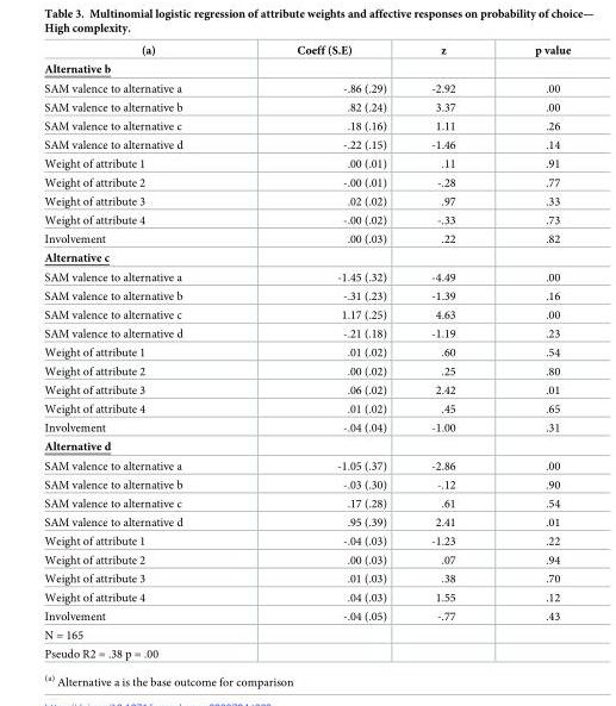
<table><thead><tr><td>(a)</td><td>Coeff (S.E)</td><td>z</td><td>p value</td></tr></thead><tbody><tr><td colspan="4">Alternative b</td></tr><tr><td>SAM valence to alternative a</td><td>-.86 (.29)</td><td>-2.92</td><td>.00</td></tr><tr><td>SAM valence to alternative b</td><td>.82 (.24)</td><td>3.37</td><td>.00</td></tr><tr><td>SAM valence to alternative c</td><td>.18 (.16)</td><td>1.11</td><td>.26</td></tr><tr><td>SAM valence to alternative d</td><td>-.22 (.15)</td><td>-1.46</td><td>.14</td></tr><tr><td>Weight of attribute 1</td><td>.00 (.01)</td><td>.11</td><td>.91</td></tr><tr><td>Weight of attribute 2</td><td>-.00 (.01)</td><td>-.28</td><td>.77</td></tr><tr><td>Weight of attribute 3</td><td>.02 (.02)</td><td>.97</td><td>.33</td></tr><tr><td>Weight of attribute 4</td><td>-.00 (.02)</td><td>-.33</td><td>.73</td></tr><tr><td>Involvement</td><td>.00 (.03)</td><td>.22</td><td>.82</td></tr><tr><td colspan="4">Alternative c</td></tr><tr><td>SAM valence to alternative a</td><td>-1.45 (.32)</td><td>-4.49</td><td>.00</td></tr><tr><td>SAM valence to alternative b</td><td>-.31 (.23)</td><td>-1.39</td><td>.16</td></tr><tr><td>SAM valence to alternative c</td><td>1.17 (.25)</td><td>4.63</td><td>.00</td></tr><tr><td>SAM valence to alternative d</td><td>-.21 (.18)</td><td>-1.19</td><td>.23</td></tr><tr><td>Weight of attribute 1</td><td>.01 (.02)</td><td>.60</td><td>.54</td></tr><tr><td>Weight of attribute 2</td><td>.00 (.02)</td><td>.25</td><td>.80</td></tr><tr><td>Weight of attribute 3</td><td>.06 (.02)</td><td>2.42</td><td>.01</td></tr><tr><td>Weight of attribute 4</td><td>.01 (.02)</td><td>.45</td><td>.65</td></tr><tr><td>Involvement</td><td>-.04 (.04)</td><td>-1.00</td><td>.31</td></tr><tr><td colspan="4">Alternative d</td></tr><tr><td>SAM valence to alternative a</td><td>-1.05 (.37)</td><td>-2.86</td><td>.00</td></tr><tr><td>SAM valence to alternative b</td><td>-.03 (.30)</td><td>-.12</td><td>.90</td></tr><tr><td>SAM valence to alternative c</td><td>.17 (.28)</td><td>.61</td><td>.54</td></tr><tr><td>SAM valence to alternative d</td><td>.95 (.39)</td><td>2.41</td><td>.01</td></tr><tr><td>Weight of attribute 1</td><td>-.04 (.03)</td><td>-1.23</td><td>.22</td></tr><tr><td>Weight of attribute 2</td><td>.00 (.03)</td><td>.07</td><td>.94</td></tr><tr><td>Weight of attribute 3</td><td>.01 (.03)</td><td>.38</td><td>.70</td></tr><tr><td>Weight of attribute 4</td><td>.04 (.03)</td><td>1.55</td><td>.12</td></tr><tr><td>Involvement</td><td>-.04 (.05)</td><td>-.77</td><td>.43</td></tr><tr><td colspan="4">N = 165</td></tr><tr><td>Pseudo R2 = .38 p = .00</td><td></td><td></td><td></td></tr></tbody></table>